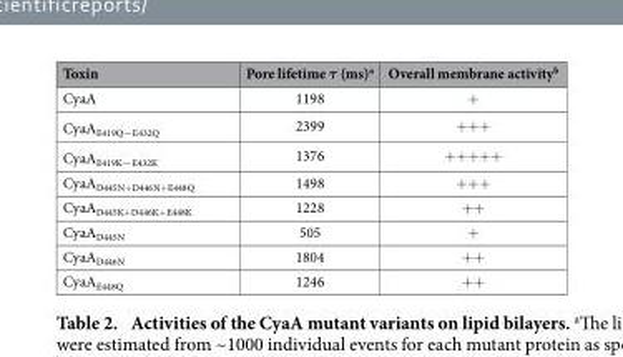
<table><thead><tr><td>Toxin</td><td>Pore lifetime τ (ms)<sup>a</sup></td><td>Overall membrane activity<sup>b</sup></td></tr></thead><tbody><tr><td>CyaA</td><td>1198</td><td>+</td></tr><tr><td>CyaA<sub>E419Q−E432Q</sub></td><td>2399</td><td>+ + +</td></tr><tr><td>CyaA<sub>E419K−E432K</sub></td><td>1376</td><td>+ + + + +</td></tr><tr><td>CyaA<sub>D445N+D446N+E448Q</sub></td><td>1498</td><td>+ + +</td></tr><tr><td>CyaA<sub>D445K+D446K+E448K</sub></td><td>1228</td><td>+ +</td></tr><tr><td>CyaA<sub>D445N</sub></td><td>505</td><td>+</td></tr><tr><td>CyaA<sub>D446N</sub></td><td>1804</td><td>+ +</td></tr><tr><td>CyaA<sub>E448Q</sub></td><td>1246</td><td>+ +</td></tr></tbody></table>